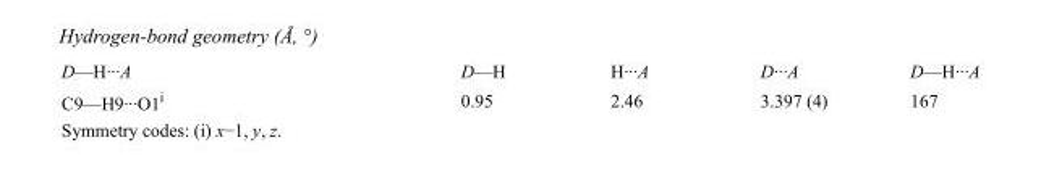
<table><tbody><tr><td>D—H···A</td><td>D—H</td><td>H···A</td><td>D···A</td><td>D—H···A</td></tr><tr><td>C9—H9···O1<sup>i</sup></td><td>0.95</td><td>2.46</td><td>3.397 (4)</td><td>167</td></tr></tbody></table>